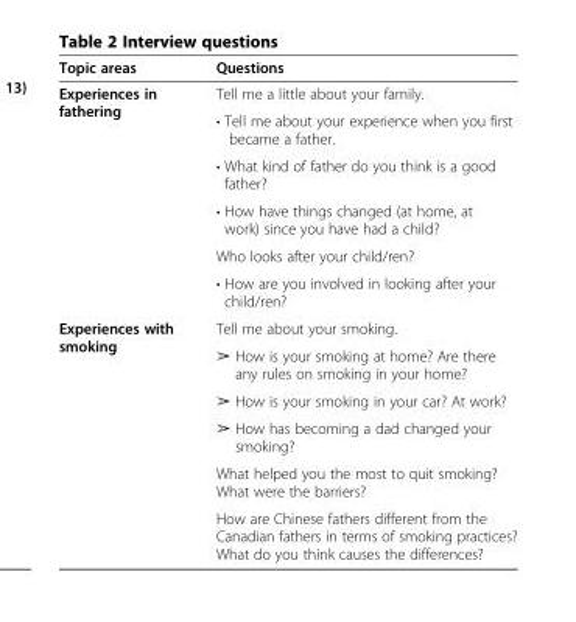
<table><thead><tr><td>Topic areas</td><td>Questions</td></tr></thead><tbody><tr><td rowspan="6">Experiences in fathering</td><td>Tell me a little about your family.</td></tr><tr><td>• Tell me about your experience when you first became a father.</td></tr><tr><td>• What kind of father do you think is a good father?</td></tr><tr><td>• How have things changed (at home, at work) since you have had a child?</td></tr><tr><td>Who looks after your child/ren?</td></tr><tr><td>• How are you involved in looking after your child/ren?</td></tr><tr><td rowspan="6">Experiences with smoking</td><td>Tell me about your smoking.</td></tr><tr><td>➢ How is your smoking at home? Are there any rules on smoking in your home?</td></tr><tr><td>➢ How is your smoking in your car? At work?</td></tr><tr><td>➢ How has becoming a dad changed your smoking?</td></tr><tr><td>What helped you the most to quit smoking? What were the barriers?</td></tr><tr><td>How are Chinese fathers different from the Canadian fathers in terms of smoking practices? What do you think causes the differences?</td></tr></tbody></table>